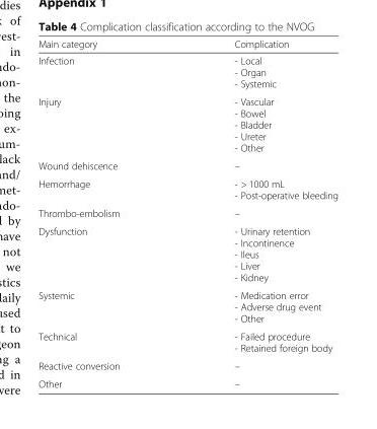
<table><thead><tr><td>Main category</td><td>Complication</td></tr></thead><tbody><tr><td>Infection</td><td>- Local - Organ - Systemic</td></tr><tr><td>Injury</td><td>- Vascular - Bowel - Bladder - Ureter - Other</td></tr><tr><td>Wound dehiscence</td><td>–</td></tr><tr><td>Hemorrhage</td><td>- &gt; 1000 mL - Post-operative bleeding</td></tr><tr><td>Thrombo-embolism</td><td>–</td></tr><tr><td>Dysfunction</td><td>- Urinary retention - Incontinence - Ileus - Liver - Kidney</td></tr><tr><td>Systemic</td><td>- Medication error - Adverse drug event - Other</td></tr><tr><td>Technical</td><td>- Failed procedure - Retained foreign body</td></tr><tr><td>Reactive conversion</td><td>–</td></tr><tr><td>Other</td><td>–</td></tr></tbody></table>